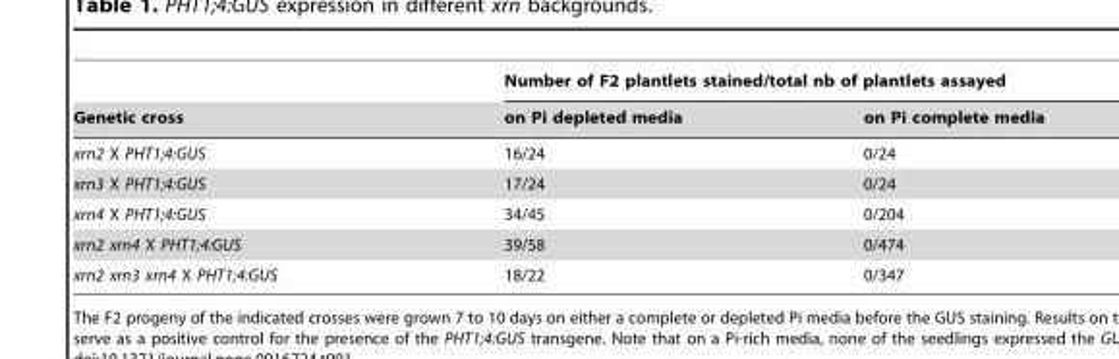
<table><thead><tr><td rowspan="2">Genetic cross</td><td colspan="2">Number of F2 plantlets stained/total nb of plantlets assayed</td></tr><tr><td>on Pi depleted media</td><td>on Pi complete media</td></tr></thead><tbody><tr><td>xrn2 X PHT1;4:GUS</td><td>16/24</td><td>0/24</td></tr><tr><td>xrn3 X PHT1;4:GUS</td><td>17/24</td><td>0/24</td></tr><tr><td>xrn4 X PHT1;4:GUS</td><td>34/45</td><td>0/204</td></tr><tr><td>xrn2 xrn4 X PHT1;4:GUS</td><td>39/58</td><td>0/474</td></tr><tr><td>xrn2 xrn3 xrn4 X PHT1;4:GUS</td><td>18/22</td><td>0/347</td></tr></tbody></table>